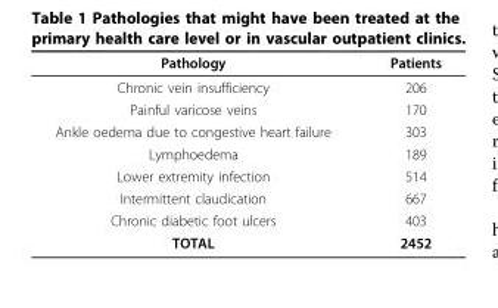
<table><thead><tr><td>Pathology</td><td>Patients</td></tr></thead><tbody><tr><td>Chronic vein insufficiency</td><td>206</td></tr><tr><td>Painful varicose veins</td><td>170</td></tr><tr><td>Ankle oedema due to congestive heart failure</td><td>303</td></tr><tr><td>Lymphoedema</td><td>189</td></tr><tr><td>Lower extremity infection</td><td>514</td></tr><tr><td>Intermittent claudication</td><td>667</td></tr><tr><td>Chronic diabetic foot ulcers</td><td>403</td></tr><tr><td>TOTAL</td><td>2452</td></tr></tbody></table>